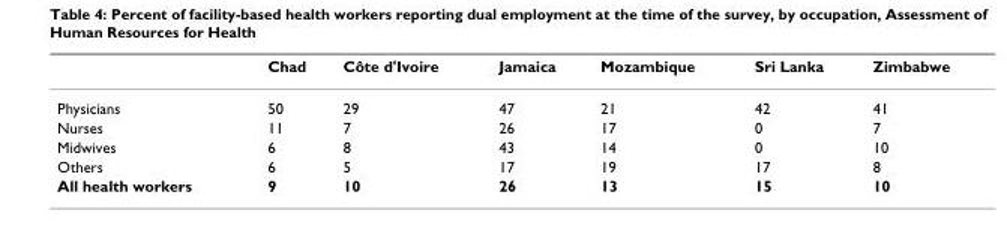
<table><thead><tr><td></td><td>Chad</td><td>Côte d&#x27;Ivoire</td><td>Jamaica</td><td>Mozambique</td><td>Sri Lanka</td><td>Zimbabwe</td></tr></thead><tbody><tr><td>Physicians</td><td>50</td><td>29</td><td>47</td><td>21</td><td>42</td><td>41</td></tr><tr><td>Nurses</td><td>11</td><td>7</td><td>26</td><td>17</td><td>0</td><td>7</td></tr><tr><td>Midwives</td><td>6</td><td>8</td><td>43</td><td>14</td><td>0</td><td>10</td></tr><tr><td>Others</td><td>6</td><td>5</td><td>17</td><td>19</td><td>17</td><td>8</td></tr><tr><td>All health workers</td><td>9</td><td>10</td><td>26</td><td>13</td><td>15</td><td>10</td></tr></tbody></table>